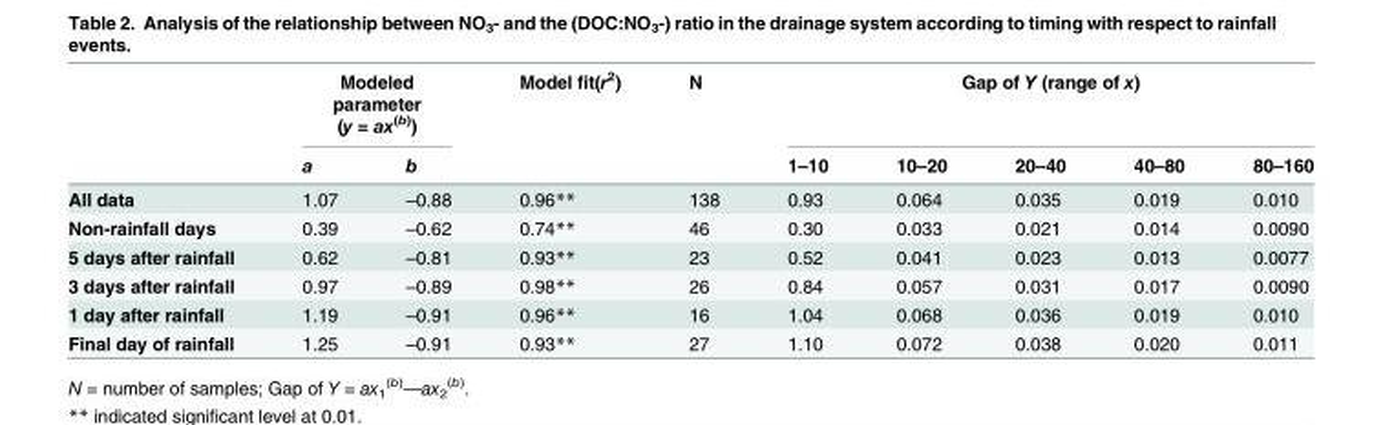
<table><thead><tr><td rowspan="2"></td><td colspan="2">Modeled parameter (y = ax<sup>(b)</sup>)</td><td rowspan="2">Model fit(r<sup>2</sup>)</td><td rowspan="2">N</td><td colspan="5">Gap of Y (range of x)</td></tr><tr><td>a</td><td>b</td><td>1–10</td><td>10–20</td><td>20–40</td><td>40–80</td><td>80–160</td></tr></thead><tbody><tr><td>All data</td><td>1.07</td><td>–0.88</td><td>0.96**</td><td>138</td><td>0.93</td><td>0.064</td><td>0.035</td><td>0.019</td><td>0.010</td></tr><tr><td>Non-rainfall days</td><td>0.39</td><td>–0.62</td><td>0.74**</td><td>46</td><td>0.30</td><td>0.033</td><td>0.021</td><td>0.014</td><td>0.0090</td></tr><tr><td>5 days after rainfall</td><td>0.62</td><td>–0.81</td><td>0.93**</td><td>23</td><td>0.52</td><td>0.041</td><td>0.023</td><td>0.013</td><td>0.0077</td></tr><tr><td>3 days after rainfall</td><td>0.97</td><td>–0.89</td><td>0.98**</td><td>26</td><td>0.84</td><td>0.057</td><td>0.031</td><td>0.017</td><td>0.0090</td></tr><tr><td>1 day after rainfall</td><td>1.19</td><td>–0.91</td><td>0.96**</td><td>16</td><td>1.04</td><td>0.068</td><td>0.036</td><td>0.019</td><td>0.010</td></tr><tr><td>Final day of rainfall</td><td>1.25</td><td>–0.91</td><td>0.93**</td><td>27</td><td>1.10</td><td>0.072</td><td>0.038</td><td>0.020</td><td>0.011</td></tr></tbody></table>